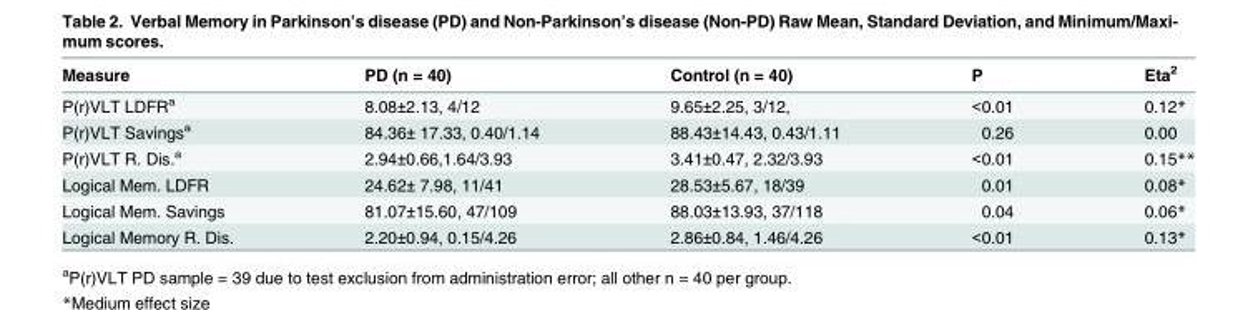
<table><thead><tr><td>Measure</td><td>PD (n = 40)</td><td>Control (n = 40)</td><td>P</td><td>Eta<sup>2</sup></td></tr></thead><tbody><tr><td>P(r)VLT LDFR<sup>a</sup></td><td>8.08±2.13, 4/12</td><td>9.65±2.25, 3/12,</td><td>&lt;0.01</td><td>0.12*</td></tr><tr><td>P(r)VLT Savings<sup>a</sup></td><td>84.36± 17.33, 0.40/1.14</td><td>88.43±14.43, 0.43/1.11</td><td>0.26</td><td>0.00</td></tr><tr><td>P(r)VLT R. Dis.<sup>a</sup></td><td>2.94±0.66,1.64/3.93</td><td>3.41±0.47, 2.32/3.93</td><td>&lt;0.01</td><td>0.15**</td></tr><tr><td>Logical Mem. LDFR</td><td>24.62± 7.98, 11/41</td><td>28.53±5.67, 18/39</td><td>0.01</td><td>0.08*</td></tr><tr><td>Logical Mem. Savings</td><td>81.07±15.60, 47/109</td><td>88.03±13.93, 37/118</td><td>0.04</td><td>0.06*</td></tr><tr><td>Logical Memory R. Dis.</td><td>2.20±0.94, 0.15/4.26</td><td>2.86±0.84, 1.46/4.26</td><td>&lt;0.01</td><td>0.13*</td></tr></tbody></table>